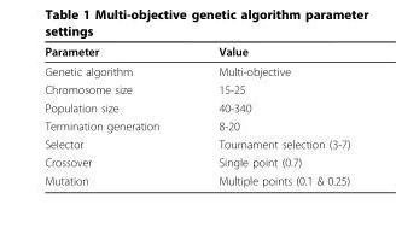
<table><thead><tr><td>Parameter</td><td>Value</td></tr></thead><tbody><tr><td>Genetic algorithm</td><td>Multi-objective</td></tr><tr><td>Chromosome size</td><td>15-25</td></tr><tr><td>Population size</td><td>40-340</td></tr><tr><td>Termination generation</td><td>8-20</td></tr><tr><td>Selector</td><td>Tournament selection (3-7)</td></tr><tr><td>Crossover</td><td>Single point (0.7)</td></tr><tr><td>Mutation</td><td>Multiple points (0.1 &amp; 0.25)</td></tr></tbody></table>